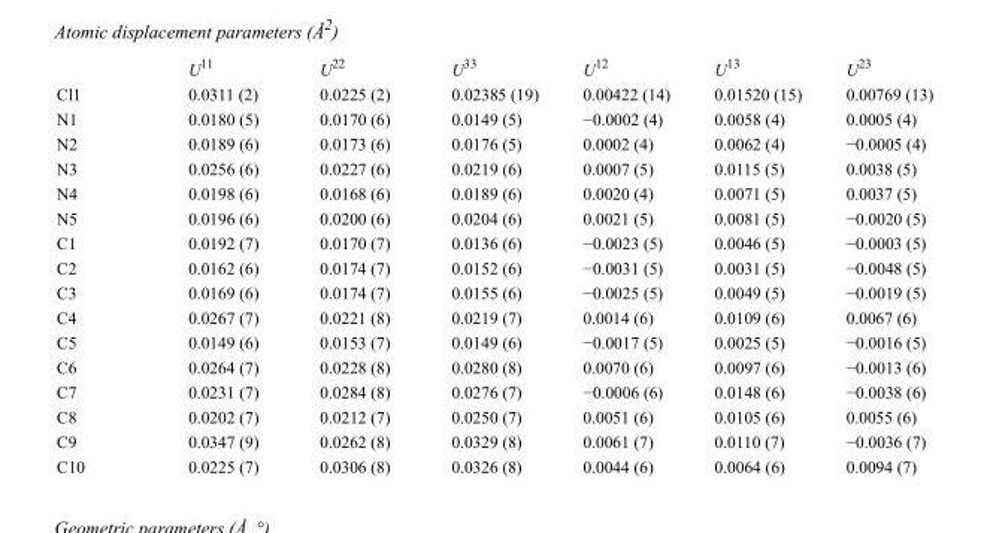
<table><thead><tr><td></td><td>U<sup>11</sup></td><td>U<sup>22</sup></td><td>U<sup>33</sup></td><td>U<sup>12</sup></td><td>U<sup>13</sup></td><td>U<sup>23</sup></td></tr></thead><tbody><tr><td>Cl1</td><td>0.0311 (2)</td><td>0.0225 (2)</td><td>0.02385 (19)</td><td>0.00422 (14)</td><td>0.01520 (15)</td><td>0.00769 (13)</td></tr><tr><td>N1</td><td>0.0180 (5)</td><td>0.0170 (6)</td><td>0.0149 (5)</td><td>−0.0002 (4)</td><td>0.0058 (4)</td><td>0.0005 (4)</td></tr><tr><td>N2</td><td>0.0189 (6)</td><td>0.0173 (6)</td><td>0.0176 (5)</td><td>0.0002 (4)</td><td>0.0062 (4)</td><td>−0.0005 (4)</td></tr><tr><td>N3</td><td>0.0256 (6)</td><td>0.0227 (6)</td><td>0.0219 (6)</td><td>0.0007 (5)</td><td>0.0115 (5)</td><td>0.0038 (5)</td></tr><tr><td>N4</td><td>0.0198 (6)</td><td>0.0168 (6)</td><td>0.0189 (6)</td><td>0.0020 (4)</td><td>0.0071 (5)</td><td>0.0037 (5)</td></tr><tr><td>N5</td><td>0.0196 (6)</td><td>0.0200 (6)</td><td>0.0204 (6)</td><td>0.0021 (5)</td><td>0.0081 (5)</td><td>−0.0020 (5)</td></tr><tr><td>C1</td><td>0.0192 (7)</td><td>0.0170 (7)</td><td>0.0136 (6)</td><td>−0.0023 (5)</td><td>0.0046 (5)</td><td>−0.0003 (5)</td></tr><tr><td>C2</td><td>0.0162 (6)</td><td>0.0174 (7)</td><td>0.0152 (6)</td><td>−0.0031 (5)</td><td>0.0031 (5)</td><td>−0.0048 (5)</td></tr><tr><td>C3</td><td>0.0169 (6)</td><td>0.0174 (7)</td><td>0.0155 (6)</td><td>−0.0025 (5)</td><td>0.0049 (5)</td><td>−0.0019 (5)</td></tr><tr><td>C4</td><td>0.0267 (7)</td><td>0.0221 (8)</td><td>0.0219 (7)</td><td>0.0014 (6)</td><td>0.0109 (6)</td><td>0.0067 (6)</td></tr><tr><td>C5</td><td>0.0149 (6)</td><td>0.0153 (7)</td><td>0.0149 (6)</td><td>−0.0017 (5)</td><td>0.0025 (5)</td><td>−0.0016 (5)</td></tr><tr><td>C6</td><td>0.0264 (7)</td><td>0.0228 (8)</td><td>0.0280 (8)</td><td>0.0070 (6)</td><td>0.0097 (6)</td><td>−0.0013 (6)</td></tr><tr><td>C7</td><td>0.0231 (7)</td><td>0.0284 (8)</td><td>0.0276 (7)</td><td>−0.0006 (6)</td><td>0.0148 (6)</td><td>−0.0038 (6)</td></tr><tr><td>C8</td><td>0.0202 (7)</td><td>0.0212 (7)</td><td>0.0250 (7)</td><td>0.0051 (6)</td><td>0.0105 (6)</td><td>0.0055 (6)</td></tr><tr><td>C9</td><td>0.0347 (9)</td><td>0.0262 (8)</td><td>0.0329 (8)</td><td>0.0061 (7)</td><td>0.0110 (7)</td><td>−0.0036 (7)</td></tr><tr><td>C10</td><td>0.0225 (7)</td><td>0.0306 (8)</td><td>0.0326 (8)</td><td>0.0044 (6)</td><td>0.0064 (6)</td><td>0.0094 (7)</td></tr></tbody></table>